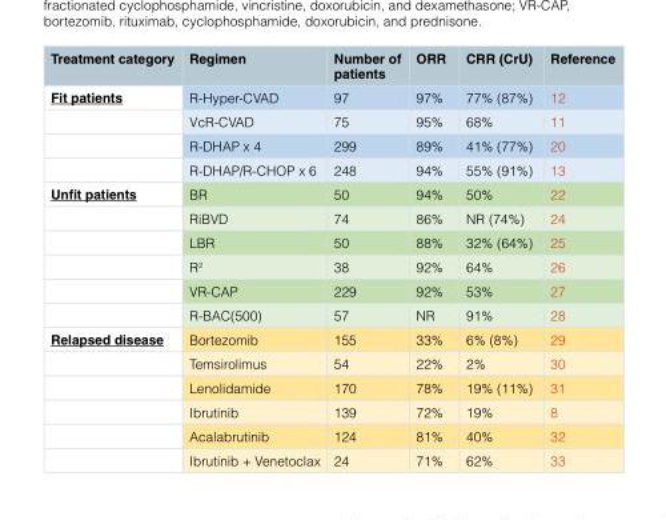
<table><thead><tr><td>Treatment category</td><td>Regimen</td><td>Number of patients</td><td>ORR</td><td>CRR (CrU)</td><td>Reference</td></tr></thead><tbody><tr><td rowspan="4">Fit patients</td><td>R-Hyper-CVAD</td><td>97</td><td>97%</td><td>77% (87%)</td><td>12</td></tr><tr><td>VcR-CVAD</td><td>75</td><td>95%</td><td>68%</td><td>11</td></tr><tr><td>R-DHAP x 4</td><td>299</td><td>89%</td><td>41% (77%)</td><td>20</td></tr><tr><td>R-DHAP/R-CHOP x 6</td><td>248</td><td>94%</td><td>55% (91%)</td><td>13</td></tr><tr><td rowspan="6">Unfit patients</td><td>BR</td><td>50</td><td>94%</td><td>50%</td><td>22</td></tr><tr><td>RiBVD</td><td>74</td><td>86%</td><td>NR (74%)</td><td>24</td></tr><tr><td>LBR</td><td>50</td><td>88%</td><td>32% (64%)</td><td>25</td></tr><tr><td>R<sup>2</sup></td><td>38</td><td>92%</td><td>64%</td><td>26</td></tr><tr><td>VR-CAP</td><td>229</td><td>92%</td><td>53%</td><td>27</td></tr><tr><td>R-BAC(500)</td><td>57</td><td>NR</td><td>91%</td><td>28</td></tr><tr><td rowspan="6">Relapsed disease</td><td>Bortezomib</td><td>155</td><td>33%</td><td>6% (8%)</td><td>29</td></tr><tr><td>Temsirolimus</td><td>54</td><td>22%</td><td>2%</td><td>30</td></tr><tr><td>Lenolidamide</td><td>170</td><td>78%</td><td>19% (11%)</td><td>31</td></tr><tr><td>Ibrutinib</td><td>139</td><td>72%</td><td>19%</td><td>8</td></tr><tr><td>Acalabrutinib</td><td>124</td><td>81%</td><td>40%</td><td>32</td></tr><tr><td>Ibrutinib + Venetoclax</td><td>24</td><td>71%</td><td>62%</td><td>33</td></tr></tbody></table>